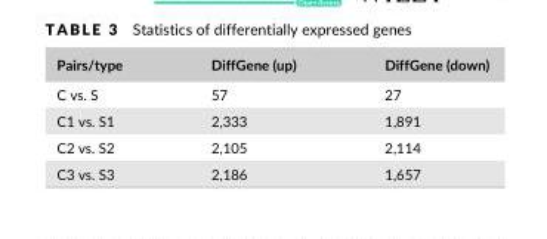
<table><thead><tr><td>Pairs/type</td><td>DiffGene (up)</td><td>DiffGene (down)</td></tr></thead><tbody><tr><td>C vs. S</td><td>57</td><td>27</td></tr><tr><td>C1 vs. S1</td><td>2,333</td><td>1,891</td></tr><tr><td>C2 vs. S2</td><td>2,105</td><td>2,114</td></tr><tr><td>C3 vs. S3</td><td>2,186</td><td>1,657</td></tr></tbody></table>